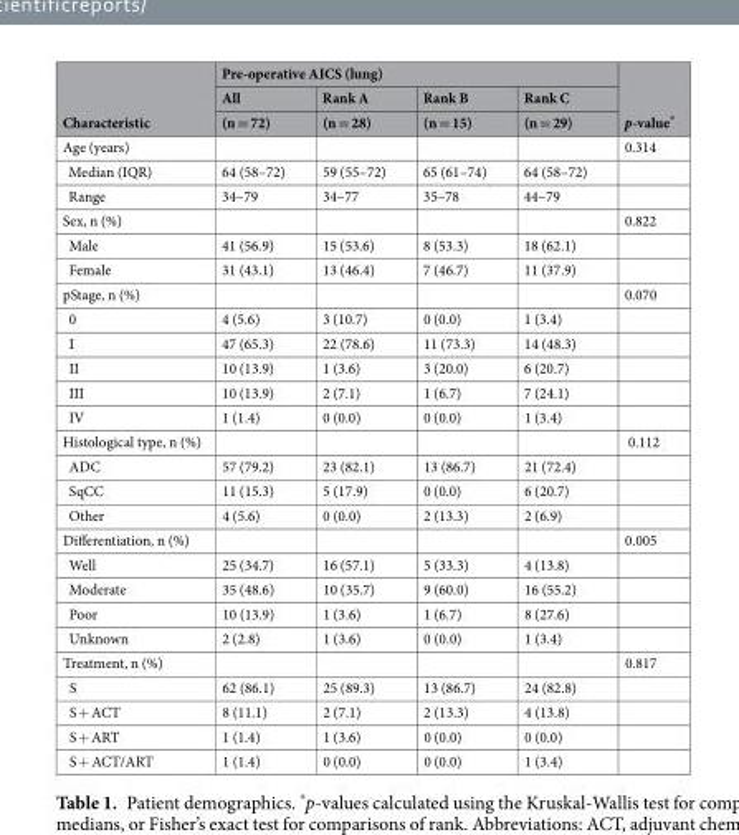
<table><thead><tr><td rowspan="3">Characteristic</td><td colspan="4">Pre-operative AICS (lung)</td><td rowspan="3">p-value*</td></tr><tr><td rowspan="2">All (n = 72)</td><td rowspan="2">Rank A (n = 28)</td><td rowspan="2">Rank B (n = 15)</td><td rowspan="2">Rank C (n = 29)</td></tr><tr></tr></thead><tbody><tr><td>Age (years)</td><td></td><td></td><td></td><td></td><td>0.314</td></tr><tr><td>Median (IQR)</td><td>64 (58–72)</td><td>59 (55–72)</td><td>65 (61–74)</td><td>64 (58–72)</td><td></td></tr><tr><td>Range</td><td>34–79</td><td>34–77</td><td>35–78</td><td>44–79</td><td></td></tr><tr><td>Sex, n (%)</td><td></td><td></td><td></td><td></td><td>0.822</td></tr><tr><td>Male</td><td>41 (56.9)</td><td>15 (53.6)</td><td>8 (53.3)</td><td>18 (62.1)</td><td></td></tr><tr><td>Female</td><td>31 (43.1)</td><td>13 (46.4)</td><td>7 (46.7)</td><td>11 (37.9)</td><td></td></tr><tr><td>pStage, n (%)</td><td></td><td></td><td></td><td></td><td>0.070</td></tr><tr><td>0</td><td>4 (5.6)</td><td>3 (10.7)</td><td>0 (0.0)</td><td>1 (3.4)</td><td></td></tr><tr><td>I</td><td>47 (65.3)</td><td>22 (78.6)</td><td>11 (73.3)</td><td>14 (48.3)</td><td></td></tr><tr><td>II</td><td>10 (13.9)</td><td>1 (3.6)</td><td>3 (20.0)</td><td>6 (20.7)</td><td></td></tr><tr><td>III</td><td>10 (13.9)</td><td>2 (7.1)</td><td>1 (6.7)</td><td>7 (24.1)</td><td></td></tr><tr><td>IV</td><td>1 (1.4)</td><td>0 (0.0)</td><td>0 (0.0)</td><td>1 (3.4)</td><td></td></tr><tr><td>Histological type, n (%)</td><td></td><td></td><td></td><td></td><td>0.112</td></tr><tr><td>ADC</td><td>57 (79.2)</td><td>23 (82.1)</td><td>13 (86.7)</td><td>21 (72.4)</td><td></td></tr><tr><td>SqCC</td><td>11 (15.3)</td><td>5 (17.9)</td><td>0 (0.0)</td><td>6 (20.7)</td><td></td></tr><tr><td>Other</td><td>4 (5.6)</td><td>0 (0.0)</td><td>2 (13.3)</td><td>2 (6.9)</td><td></td></tr><tr><td>Differentiation, n (%)</td><td></td><td></td><td></td><td></td><td>0.005</td></tr><tr><td>Well</td><td>25 (34.7)</td><td>16 (57.1)</td><td>5 (33.3)</td><td>4 (13.8)</td><td></td></tr><tr><td>Moderate</td><td>35 (48.6)</td><td>10 (35.7)</td><td>9 (60.0)</td><td>16 (55.2)</td><td></td></tr><tr><td>Poor</td><td>10 (13.9)</td><td>1 (3.6)</td><td>1 (6.7)</td><td>8 (27.6)</td><td></td></tr><tr><td>Unknown</td><td>2 (2.8)</td><td>1 (3.6)</td><td>0 (0.0)</td><td>1 (3.4)</td><td></td></tr><tr><td>Treatment, n (%)</td><td></td><td></td><td></td><td></td><td>0.817</td></tr><tr><td>S</td><td>62 (86.1)</td><td>25 (89.3)</td><td>13 (86.7)</td><td>24 (82.8)</td><td></td></tr><tr><td>S + ACT</td><td>8 (11.1)</td><td>2 (7.1)</td><td>2 (13.3)</td><td>4 (13.8)</td><td></td></tr><tr><td>S + ART</td><td>1 (1.4)</td><td>1 (3.6)</td><td>0 (0.0)</td><td>0 (0.0)</td><td></td></tr><tr><td>S + ACT/ART</td><td>1 (1.4)</td><td>0 (0.0)</td><td>0 (0.0)</td><td>1 (3.4)</td><td></td></tr></tbody></table>